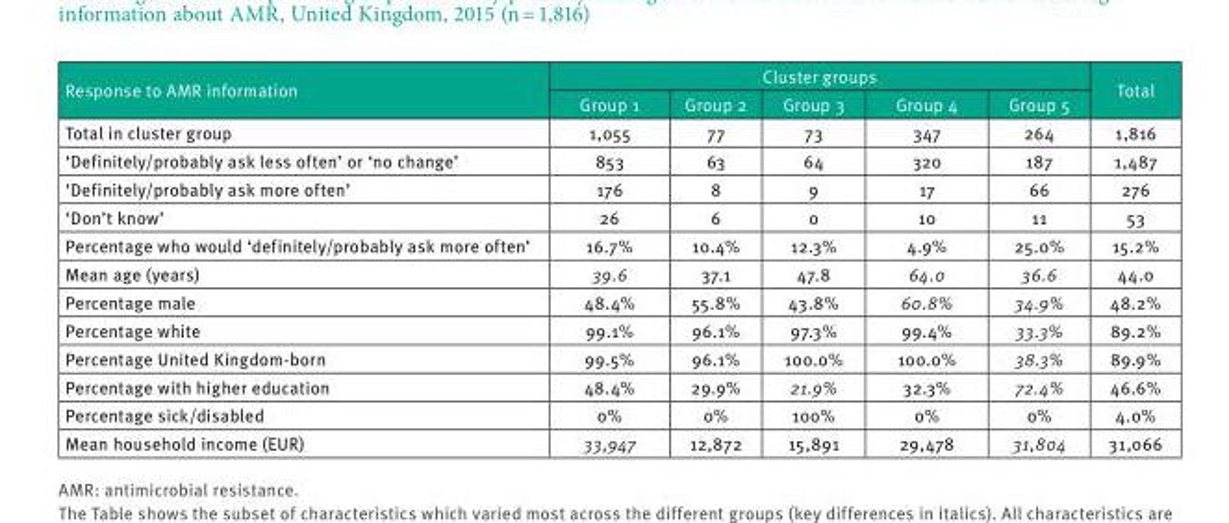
<table><thead><tr><td rowspan="2">Response to AMR information</td><td colspan="5">Cluster groups</td><td rowspan="2">Total</td></tr><tr><td>Group 1</td><td>Group 2</td><td>Group 3</td><td>Group 4</td><td>Group 5</td></tr></thead><tbody><tr><td>Total in cluster group</td><td>1,055</td><td>77</td><td>73</td><td>347</td><td>264</td><td>1,816</td></tr><tr><td>‘Definitely/probably ask less often’ or ‘no change’</td><td>853</td><td>63</td><td>64</td><td>320</td><td>187</td><td>1,487</td></tr><tr><td>‘Definitely/probably ask more often’</td><td>176</td><td>8</td><td>9</td><td>17</td><td>66</td><td>276</td></tr><tr><td>‘Don’t know’</td><td>26</td><td>6</td><td>0</td><td>10</td><td>11</td><td>53</td></tr><tr><td>Percentage who would ‘definitely/probably ask more often’</td><td>16.7%</td><td>10.4%</td><td>12.3%</td><td>4.9%</td><td>25.0%</td><td>15.2%</td></tr><tr><td>Mean age (years)</td><td>39.6</td><td>37.1</td><td>47.8</td><td>64.0</td><td>36.6</td><td>44.0</td></tr><tr><td>Percentage male</td><td>48.4%</td><td>55.8%</td><td>43.8%</td><td>60.8%</td><td>34.9%</td><td>48.2%</td></tr><tr><td>Percentage white</td><td>99.1%</td><td>96.1%</td><td>97.3%</td><td>99.4%</td><td>33.3%</td><td>89.2%</td></tr><tr><td>Percentage United Kingdom-born</td><td>99.5%</td><td>96.1%</td><td>100.0%</td><td>100.0%</td><td>38.3%</td><td>89.9%</td></tr><tr><td>Percentage with higher education</td><td>48.4%</td><td>29.9%</td><td>21.9%</td><td>32.3%</td><td>72.4%</td><td>46.6%</td></tr><tr><td>Percentage sick/disabled</td><td>0%</td><td>0%</td><td>100%</td><td>0%</td><td>0%</td><td>4.0%</td></tr><tr><td>Mean household income (EUR)</td><td>33,947</td><td>12,872</td><td>15,891</td><td>29,478</td><td>31,804</td><td>31,066</td></tr></tbody></table>